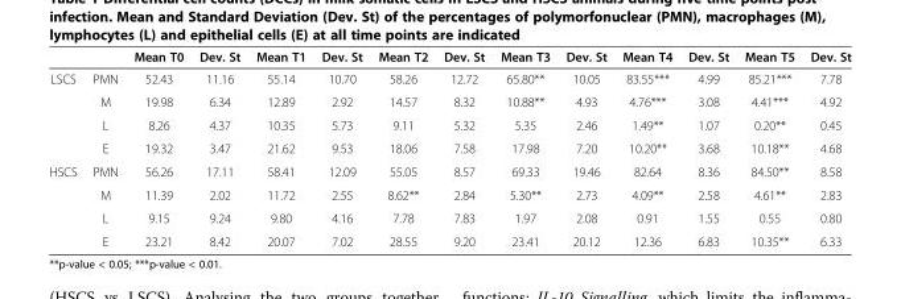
<table><thead><tr><td></td><td></td><td>Mean T0</td><td>Dev. St</td><td>Mean T1</td><td>Dev. St</td><td>Mean T2</td><td>Dev. St</td><td>Mean T3</td><td>Dev. St</td><td>Mean T4</td><td>Dev. St</td><td>Mean T5</td><td>Dev. St</td></tr></thead><tbody><tr><td rowspan="4">LSCS</td><td>PMN</td><td>52.43</td><td>11.16</td><td>55.14</td><td>10.70</td><td>58.26</td><td>12.72</td><td>65.80**</td><td>10.05</td><td>83.55***</td><td>4.99</td><td>85.21***</td><td>7.78</td></tr><tr><td>M</td><td>19.98</td><td>6.34</td><td>12.89</td><td>2.92</td><td>14.57</td><td>8.32</td><td>10.88**</td><td>4.93</td><td>4.76***</td><td>3.08</td><td>4.41***</td><td>4.92</td></tr><tr><td>L</td><td>8.26</td><td>4.37</td><td>10.35</td><td>5.73</td><td>9.11</td><td>5.32</td><td>5.35</td><td>2.46</td><td>1.49**</td><td>1.07</td><td>0.20**</td><td>0.45</td></tr><tr><td>E</td><td>19.32</td><td>3.47</td><td>21.62</td><td>9.53</td><td>18.06</td><td>7.58</td><td>17.98</td><td>7.20</td><td>10.20**</td><td>3.68</td><td>10.18**</td><td>4.68</td></tr><tr><td rowspan="4">HSCS</td><td>PMN</td><td>56.26</td><td>17.11</td><td>58.41</td><td>12.09</td><td>55.05</td><td>8.57</td><td>69.33</td><td>19.46</td><td>82.64</td><td>8.36</td><td>84.50**</td><td>8.58</td></tr><tr><td>M</td><td>11.39</td><td>2.02</td><td>11.72</td><td>2.55</td><td>8.62**</td><td>2.84</td><td>5.30**</td><td>2.73</td><td>4.09**</td><td>2.58</td><td>4.61**</td><td>2.83</td></tr><tr><td>L</td><td>9.15</td><td>9.24</td><td>9.80</td><td>4.16</td><td>7.78</td><td>7.83</td><td>1.97</td><td>2.08</td><td>0.91</td><td>1.55</td><td>0.55</td><td>0.80</td></tr><tr><td>E</td><td>23.21</td><td>8.42</td><td>20.07</td><td>7.02</td><td>28.55</td><td>9.20</td><td>23.41</td><td>20.12</td><td>12.36</td><td>6.83</td><td>10.35**</td><td>6.33</td></tr></tbody></table>